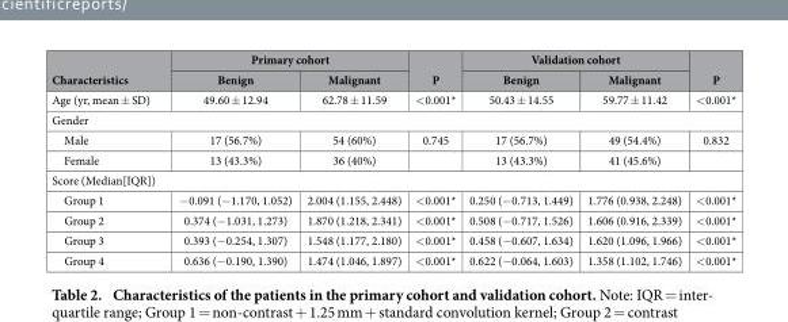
<table><thead><tr><td rowspan="2">Characteristics</td><td colspan="2">Primary cohort</td><td rowspan="2">P</td><td colspan="2">Validation cohort</td><td rowspan="2">P</td></tr><tr><td>Benign</td><td>Malignant</td><td>Benign</td><td>Malignant</td></tr></thead><tbody><tr><td>Age (yr, mean ± SD)</td><td>49.60 ± 12.94</td><td>62.78 ± 11.59</td><td>&lt; 0.001*</td><td>50.43 ± 14.55</td><td>59.77 ± 11.42</td><td>&lt; 0.001*</td></tr><tr><td colspan="7">Gender</td></tr><tr><td>Male</td><td>17 (56.7%)</td><td>54 (60%)</td><td>0.745</td><td>17 (56.7%)</td><td>49 (54.4%)</td><td>0.832</td></tr><tr><td>Female</td><td>13 (43.3%)</td><td>36 (40%)</td><td></td><td>13 (43.3%)</td><td>41 (45.6%)</td><td></td></tr><tr><td colspan="7">Score (Median[IQR])</td></tr><tr><td>Group 1</td><td>− 0.091 (− 1.170, 1.052)</td><td>2.004 (1.155, 2.448)</td><td>&lt; 0.001*</td><td>0.250 (− 0.713, 1.449)</td><td>1.776 (0.938, 2.248)</td><td>&lt; 0.001*</td></tr><tr><td>Group 2</td><td>0.374 (− 1.031, 1.273)</td><td>1.870 (1.218, 2.341)</td><td>&lt; 0.001*</td><td>0.508 (− 0.717, 1.526)</td><td>1.606 (0.916, 2.339)</td><td>&lt; 0.001*</td></tr><tr><td>Group 3</td><td>0.393 (− 0.254, 1.307)</td><td>1.548 (1.177, 2.180)</td><td>&lt; 0.001*</td><td>0.458 (− 0.607, 1.634)</td><td>1.620 (1.096, 1.966)</td><td>&lt; 0.001*</td></tr><tr><td>Group 4</td><td>0.636 (− 0.190, 1.390)</td><td>1.474 (1.046, 1.897)</td><td>&lt; 0.001*</td><td>0.622 (− 0.064, 1.603)</td><td>1.358 (1.102, 1.746)</td><td>&lt; 0.001*</td></tr></tbody></table>